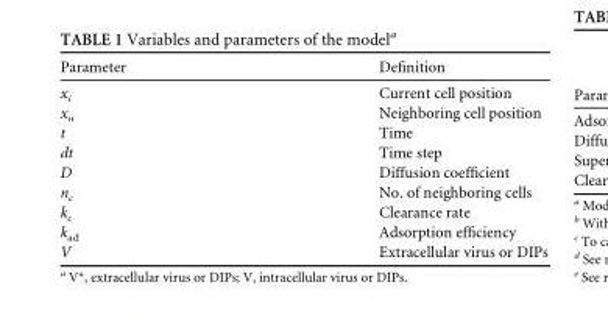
<table><thead><tr><td>Parameter</td><td>Definition</td></tr></thead><tbody><tr><td>x<sub>i</sub></td><td>Current cell position</td></tr><tr><td>x<sub>n</sub></td><td>Neighboring cell position</td></tr><tr><td>t</td><td>Time</td></tr><tr><td>dt</td><td>Time step</td></tr><tr><td>D</td><td>Diffusion coefficient</td></tr><tr><td>n<sub>c</sub></td><td>No. of neighboring cells</td></tr><tr><td>k<sub>c</sub></td><td>Clearance rate</td></tr><tr><td>k<sub>ad</sub></td><td>Adsorption efficiency</td></tr><tr><td>V</td><td>Extracellular virus or DIPs</td></tr></tbody></table>